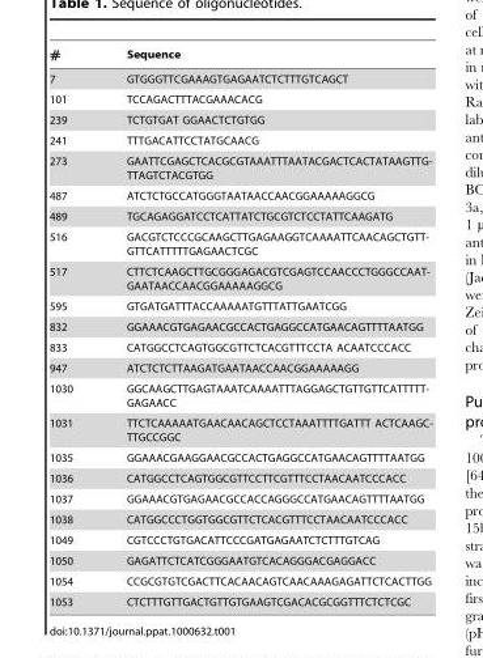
<table><thead><tr><td>#</td><td>Sequence</td></tr></thead><tbody><tr><td>7</td><td>GTGGGTTCGAAAGTGAGAATCTCTTTGTCAGCT</td></tr><tr><td>101</td><td>TCCAGACTTTACGAAACACG</td></tr><tr><td>239</td><td>TCTGTGAT GGAACTCTGTGG</td></tr><tr><td>241</td><td>TTTGACATTCCTATGCAACG</td></tr><tr><td>273</td><td>GAATTCGAGCTCACGCGTAAATTTAATACGACTCACTATAAGTTG- TTAGTCTACGTGG</td></tr><tr><td>487</td><td>ATCTCTGCCATGGGTAATAACCAACGGAAAAAGGCG</td></tr><tr><td>489</td><td>TGCAGAGGATCCTCATTATCTGCGTCTCCTATTCAAGATG</td></tr><tr><td>516</td><td>GACGTCTCCCGCAAGCTTGAGAAGGTCAAAATTCAACAGCTGTT- GTTCATTTTTGAGAACTCGC</td></tr><tr><td>517</td><td>CTTCTCAAGCTTGCGGGAGACGTCGAGTCCAACCCTGGGCCAAT- GAATAACCAACGGAAAAAGGCG</td></tr><tr><td>595</td><td>GTGATGATTTACCAAAAATGTTTATTGAATCGG</td></tr><tr><td>832</td><td>GGAAACGTGAGAACGCCACTGAGGCCATGAACAGTTTTAATGG</td></tr><tr><td>833</td><td>CATGGCCTCAGTGGCGTTCTCACGTTTCCTA ACAATCCCACC</td></tr><tr><td>947</td><td>ATCTCTCTTAAGATGAATAACCAACGGAAAAAGG</td></tr><tr><td>1030</td><td>GGCAAGCTTGAGTAAATCAAAATTTAGGAGCTGTTGTTCATTTTT- GAGAACC</td></tr><tr><td>1031</td><td>TTCTCAAAAATGAACAACAGCTCCTAAATTTTGATTT ACTCAAGC- TTGCCGGC</td></tr><tr><td>1035</td><td>GGAAACGAAGGAACGCCACTGAGGCCATGAACAGTTTTAATGG</td></tr><tr><td>1036</td><td>CATGGCCTCAGTGGCGTTCCTTCGTTTCCTAACAATCCCACC</td></tr><tr><td>1037</td><td>GGAAACGTGAGAACGCCACCAGGGCCATGAACAGTTTTAATGG</td></tr><tr><td>1038</td><td>CATGGCCCTGGTGGCGTTCTCACGTTTCCTAACAATCCCACC</td></tr><tr><td>1049</td><td>CGTCCCTGTGACATTCCCGATGAGAATCTCTTTGTCAG</td></tr><tr><td>1050</td><td>GAGATTCTCATCGGGAATGTCACAGGGACGAGGACC</td></tr><tr><td>1054</td><td>CCGCGTGTCGACTTCACAACAGTCAACAAAGAGATTCTCACTTGG</td></tr><tr><td>1053</td><td>CTCTTTGTTGACTGTTGTGAAGTCGACACGCGGTTTCTCTCGC</td></tr></tbody></table>